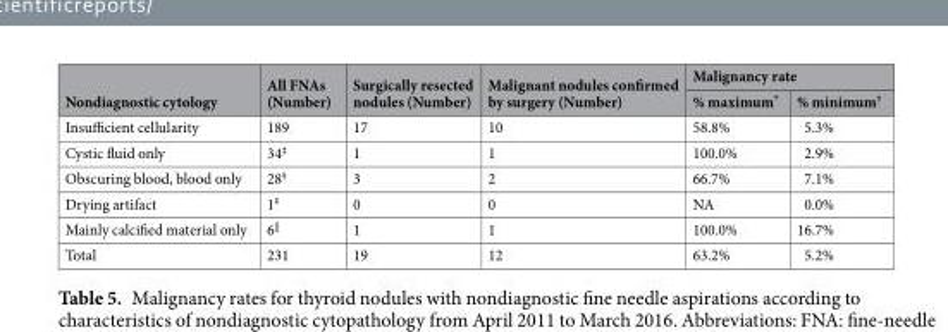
<table><thead><tr><td rowspan="2">Nondiagnostic cytology</td><td rowspan="2">All FNAs (Number)</td><td rowspan="2">Surgically resected nodules (Number)</td><td rowspan="2">Malignant nodules confirmed by surgery (Number)</td><td colspan="2">Malignancy rate</td></tr><tr><td>% maximum*</td><td>% minimum<sup>†</sup></td></tr></thead><tbody><tr><td>Insufficient cellularity</td><td>189</td><td>17</td><td>10</td><td>58.8%</td><td>5.3%</td></tr><tr><td>Cystic fluid only</td><td>34<sup>‡</sup></td><td>1</td><td>1</td><td>100.0%</td><td>2.9%</td></tr><tr><td>Obscuring blood, blood only</td><td>28<sup>§</sup></td><td>3</td><td>2</td><td>66.7%</td><td>7.1%</td></tr><tr><td>Drying artifact</td><td>1<sup>‡</sup></td><td>0</td><td>0</td><td>NA</td><td>0.0%</td></tr><tr><td>Mainly calcified material only</td><td>6<sup>||</sup></td><td>1</td><td>1</td><td>100.0%</td><td>16.7%</td></tr><tr><td>Total</td><td>231</td><td>19</td><td>12</td><td>63.2%</td><td>5.2%</td></tr></tbody></table>